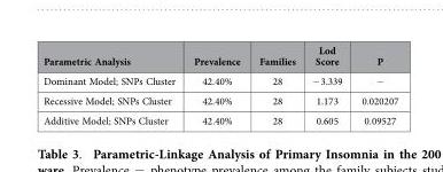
<table><thead><tr><td>Parametric Analysis</td><td>Prevalence</td><td>Families</td><td>Lod Score</td><td>P</td></tr></thead><tbody><tr><td>Dominant Model; SNPs Cluster</td><td>42.40%</td><td>28</td><td>− 3.339</td><td>−</td></tr><tr><td>Recessive Model; SNPs Cluster</td><td>42.40%</td><td>28</td><td>1.173</td><td>0.020207</td></tr><tr><td>Additive Model; SNPs Cluster</td><td>42.40%</td><td>28</td><td>0.605</td><td>0.09527</td></tr></tbody></table>